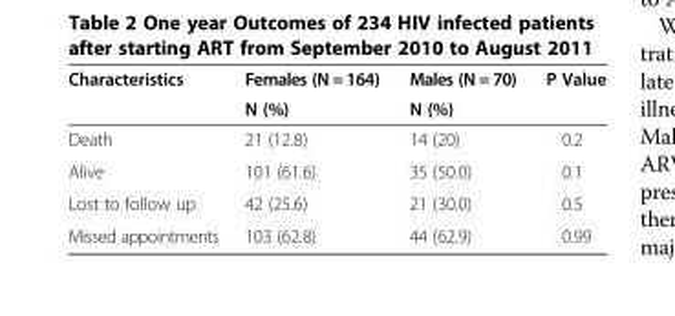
<table><thead><tr><td rowspan="2">Characteristics</td><td rowspan="2">Females (N = 164) N (%)</td><td rowspan="2">Males (N = 70) N (%)</td><td rowspan="2">P Value</td></tr><tr></tr></thead><tbody><tr><td>Death</td><td>21 (12.8)</td><td>14 (20)</td><td>0.2</td></tr><tr><td>Alive</td><td>101 (61.6)</td><td>35 (50.0)</td><td>0.1</td></tr><tr><td>Lost to follow up</td><td>42 (25.6)</td><td>21 (30.0)</td><td>0.5</td></tr><tr><td>Missed appointments</td><td>103 (62.8)</td><td>44 (62.9)</td><td>0.99</td></tr></tbody></table>